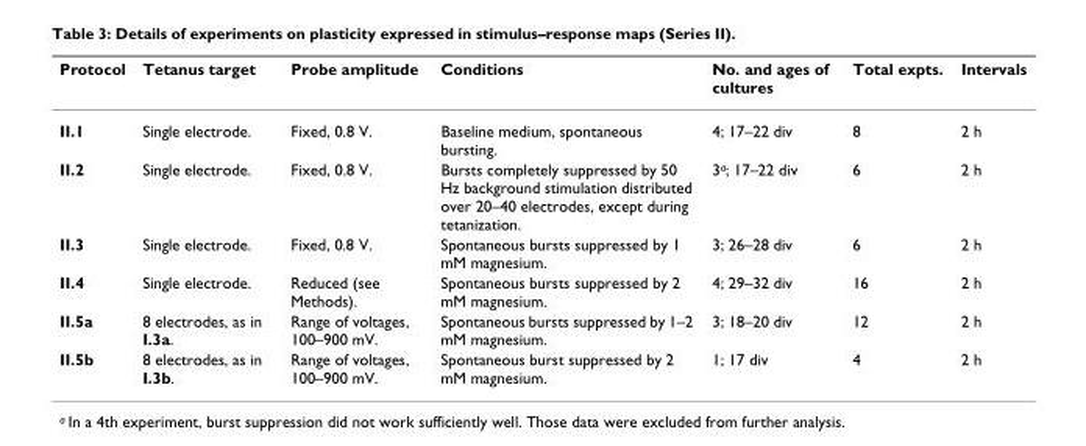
<table><thead><tr><td>Protocol</td><td>Tetanus target</td><td>Probe amplitude</td><td>Conditions</td><td>No. and ages of cultures</td><td>Total expts.</td><td>Intervals</td></tr></thead><tbody><tr><td>II.1</td><td>Single electrode.</td><td>Fixed, 0.8 V.</td><td>Baseline medium, spontaneous bursting.</td><td>4; 17–22 div</td><td>8</td><td>2 h</td></tr><tr><td>II.2</td><td>Single electrode.</td><td>Fixed, 0.8 V.</td><td>Bursts completely suppressed by 50 Hz background stimulation distributed over 20–40 electrodes, except during tetanization.</td><td>3<sup>a</sup>; 17–22 div</td><td>6</td><td>2 h</td></tr><tr><td>II.3</td><td>Single electrode.</td><td>Fixed, 0.8 V.</td><td>Spontaneous bursts suppressed by 1 mM magnesium.</td><td>3; 26–28 div</td><td>6</td><td>2 h</td></tr><tr><td>II.4</td><td>Single electrode.</td><td>Reduced (see Methods).</td><td>Spontaneous bursts suppressed by 2 mM magnesium.</td><td>4; 29–32 div</td><td>16</td><td>2 h</td></tr><tr><td>II.5a</td><td>8 electrodes, as in I.3a.</td><td>Range of voltages, 100–900 mV.</td><td>Spontaneous bursts suppressed by 1–2 mM magnesium.</td><td>3; 18–20 div</td><td>12</td><td>2 h</td></tr><tr><td>II.5b</td><td>8 electrodes, as in I.3b.</td><td>Range of voltages, 100–900 mV.</td><td>Spontaneous burst suppressed by 2 mM magnesium.</td><td>1; 17 div</td><td>4</td><td>2 h</td></tr></tbody></table>